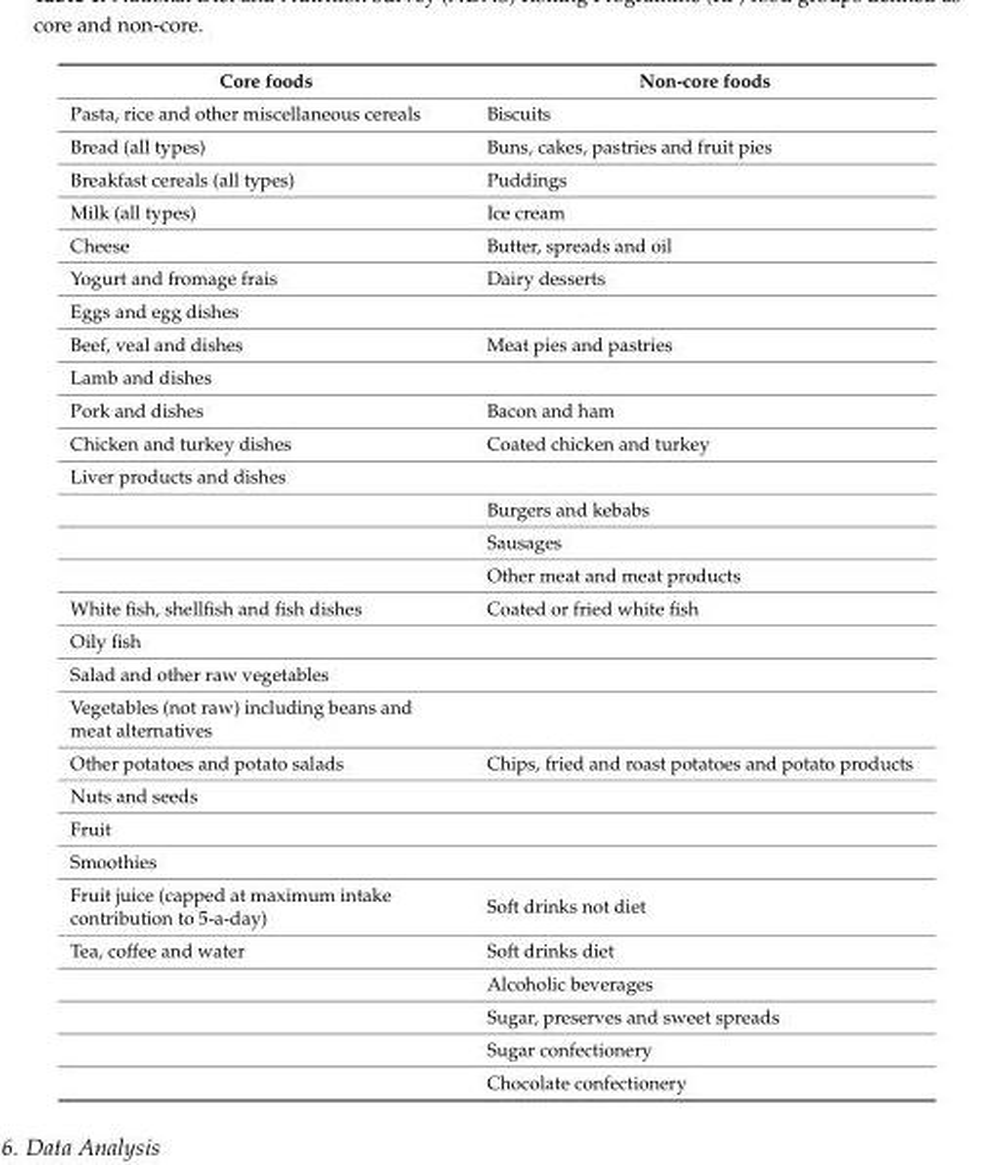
<table><thead><tr><td>Core foods</td><td>Non-core foods</td></tr></thead><tbody><tr><td>Pasta, rice and other miscellaneous cereals</td><td>Biscuits</td></tr><tr><td>Bread (all types)</td><td>Buns, cakes, pastries and fruit pies</td></tr><tr><td>Breakfast cereals (all types)</td><td>Puddings</td></tr><tr><td>Milk (all types)</td><td>Ice cream</td></tr><tr><td>Cheese</td><td>Butter, spreads and oil</td></tr><tr><td>Yogurt and fromage frais</td><td>Dairy desserts</td></tr><tr><td colspan="2">Eggs and egg dishes</td></tr><tr><td>Beef, veal and dishes</td><td>Meat pies and pastries</td></tr><tr><td colspan="2">Lamb and dishes</td></tr><tr><td>Pork and dishes</td><td>Bacon and ham</td></tr><tr><td>Chicken and turkey dishes</td><td>Coated chicken and turkey</td></tr><tr><td colspan="2">Liver products and dishes</td></tr><tr><td></td><td>Burgers and kebabs</td></tr><tr><td></td><td>Sausages</td></tr><tr><td></td><td>Other meat and meat products</td></tr><tr><td>White fish, shellfish and fish dishes</td><td>Coated or fried white fish</td></tr><tr><td colspan="2">Oily fish</td></tr><tr><td colspan="2">Salad and other raw vegetables</td></tr><tr><td colspan="2">Vegetables (not raw) including beans and meat alternatives</td></tr><tr><td>Other potatoes and potato salads</td><td>Chips, fried and roast potatoes and potato products</td></tr><tr><td colspan="2">Nuts and seeds</td></tr><tr><td colspan="2">Fruit</td></tr><tr><td colspan="2">Smoothies</td></tr><tr><td>Fruit juice (capped at maximum intake contribution to 5-a-day)</td><td>Soft drinks not diet</td></tr><tr><td rowspan="5">Tea, coffee and water</td><td>Soft drinks diet</td></tr><tr><td>Alcoholic beverages</td></tr><tr><td>Sugar, preserves and sweet spreads</td></tr><tr><td>Sugar confectionery</td></tr><tr><td>Chocolate confectionery</td></tr></tbody></table>